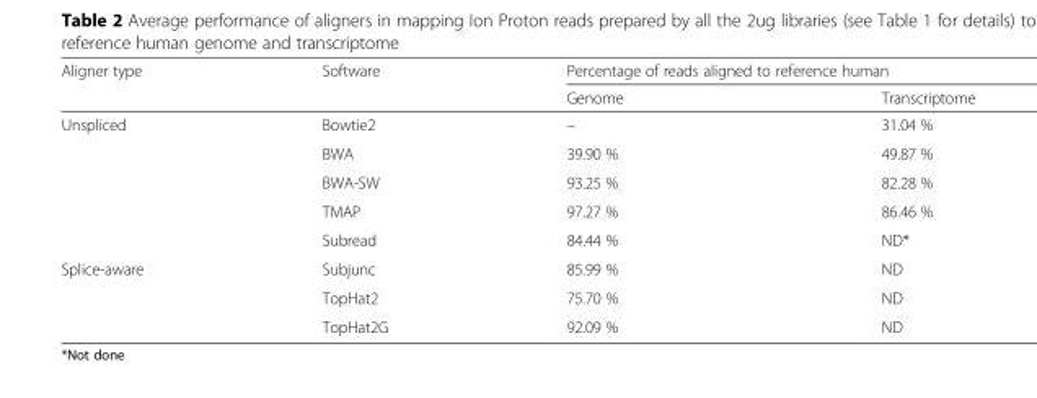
<table><thead><tr><td rowspan="2">Aligner type</td><td rowspan="2">Software</td><td colspan="2">Percentage of reads aligned to reference human</td></tr><tr><td>Genome</td><td>Transcriptome</td></tr></thead><tbody><tr><td rowspan="5">Unspliced</td><td>Bowtie2</td><td>–</td><td>31.04 %</td></tr><tr><td>BWA</td><td>39.90 %</td><td>49.87 %</td></tr><tr><td>BWA-SW</td><td>93.25 %</td><td>82.28 %</td></tr><tr><td>TMAP</td><td>97.27 %</td><td>86.46 %</td></tr><tr><td>Subread</td><td>84.44 %</td><td>ND*</td></tr><tr><td rowspan="3">Splice-aware</td><td>Subjunc</td><td>85.99 %</td><td>ND</td></tr><tr><td>TopHat2</td><td>75.70 %</td><td>ND</td></tr><tr><td>TopHat2G</td><td>92.09 %</td><td>ND</td></tr></tbody></table>